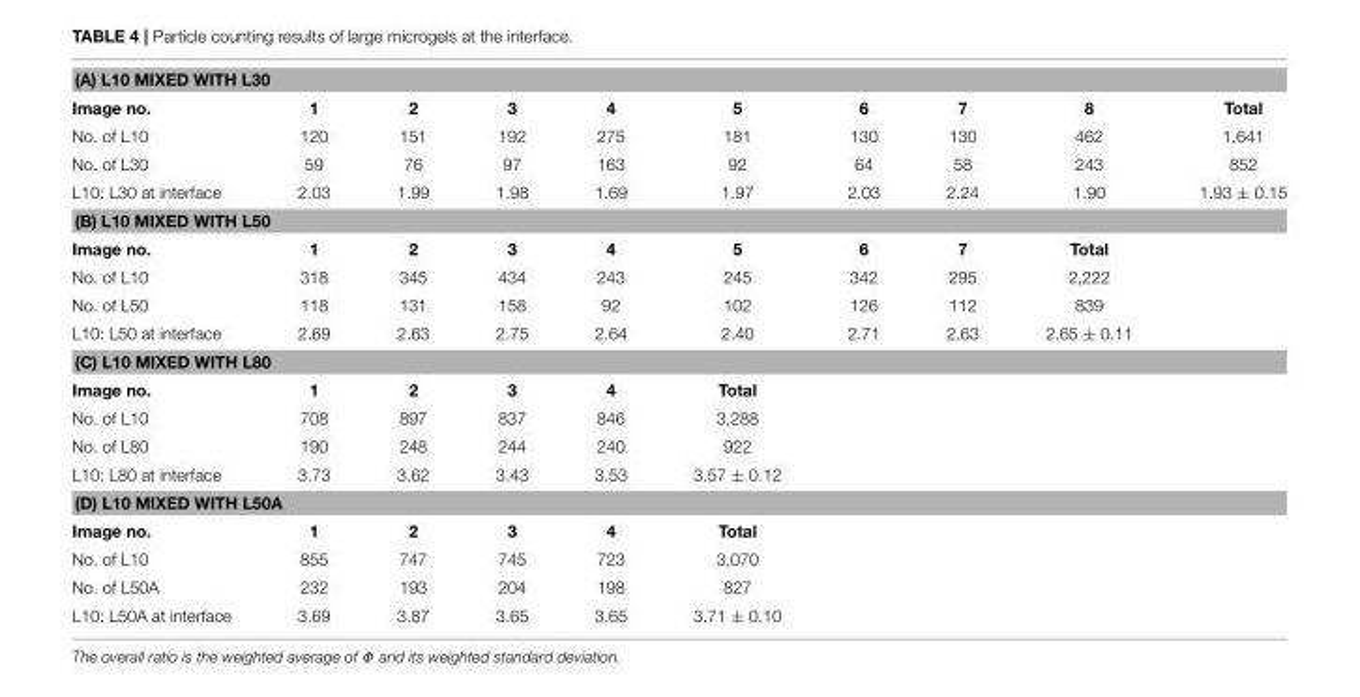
<table><tbody><tr><td colspan="10">(A) L10 MIXED WITH L30</td></tr><tr><td>Image no.</td><td>1</td><td>2</td><td>3</td><td>4</td><td>5</td><td>6</td><td>7</td><td>8</td><td>Total</td></tr><tr><td>No. of L10</td><td>120</td><td>151</td><td>192</td><td>275</td><td>181</td><td>130</td><td>130</td><td>462</td><td>1,641</td></tr><tr><td>No. of L30</td><td>59</td><td>76</td><td>97</td><td>163</td><td>92</td><td>64</td><td>58</td><td>243</td><td>852</td></tr><tr><td>L10: L30 at interface</td><td>2.03</td><td>1.99</td><td>1.98</td><td>1.69</td><td>1.97</td><td>2.03</td><td>2.24</td><td>1.90</td><td>1.93 ± 0.15</td></tr><tr><td colspan="10">(B) L10 MIXED WITH L50</td></tr><tr><td>Image no.</td><td>1</td><td>2</td><td>3</td><td>4</td><td>5</td><td>6</td><td>7</td><td>Total</td><td></td></tr><tr><td>No. of L10</td><td>318</td><td>345</td><td>434</td><td>243</td><td>245</td><td>342</td><td>295</td><td>2,222</td><td></td></tr><tr><td>No. of L50</td><td>118</td><td>131</td><td>158</td><td>92</td><td>102</td><td>126</td><td>112</td><td>839</td><td></td></tr><tr><td>L10: L50 at interface</td><td>2.69</td><td>2.63</td><td>2.75</td><td>2.64</td><td>2.40</td><td>2.71</td><td>2.63</td><td>2.65 ± 0.11</td><td></td></tr><tr><td colspan="10">(C) L10 MIXED WITH L80</td></tr><tr><td>Image no.</td><td>1</td><td>2</td><td>3</td><td>4</td><td>Total</td><td></td><td></td><td></td><td></td></tr><tr><td>No. of L10</td><td>708</td><td>897</td><td>837</td><td>846</td><td>3,288</td><td></td><td></td><td></td><td></td></tr><tr><td>No. of L80</td><td>190</td><td>248</td><td>244</td><td>240</td><td>922</td><td></td><td></td><td></td><td></td></tr><tr><td>L10: L80 at interface</td><td>3.73</td><td>3.62</td><td>3.43</td><td>3.53</td><td>3.57 ± 0.12</td><td></td><td></td><td></td><td></td></tr><tr><td colspan="10">(D) L10 MIXED WITH L50A</td></tr><tr><td>Image no.</td><td>1</td><td>2</td><td>3</td><td>4</td><td>Total</td><td></td><td></td><td></td><td></td></tr><tr><td>No. of L10</td><td>855</td><td>747</td><td>745</td><td>723</td><td>3,070</td><td></td><td></td><td></td><td></td></tr><tr><td>No. of L50A</td><td>232</td><td>193</td><td>204</td><td>198</td><td>827</td><td></td><td></td><td></td><td></td></tr><tr><td>L10: L50A at interface</td><td>3.69</td><td>3.87</td><td>3.65</td><td>3.65</td><td>3.71 ± 0.10</td><td></td><td></td><td></td><td></td></tr></tbody></table>